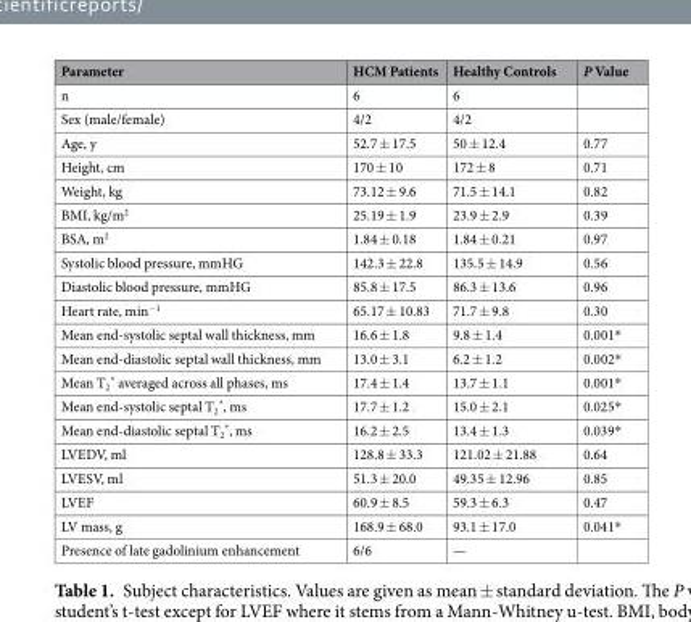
<table><thead><tr><td>Parameter</td><td>HCM Patients</td><td>Healthy Controls</td><td>P Value</td></tr></thead><tbody><tr><td>n</td><td>6</td><td>6</td><td></td></tr><tr><td>Sex (male/female)</td><td>4/2</td><td>4/2</td><td></td></tr><tr><td>Age, y</td><td>52.7 ± 17.5</td><td>50 ± 12.4</td><td>0.77</td></tr><tr><td>Height, cm</td><td>170 ± 10</td><td>172 ± 8</td><td>0.71</td></tr><tr><td>Weight, kg</td><td>73.12 ± 9.6</td><td>71.5 ± 14.1</td><td>0.82</td></tr><tr><td>BMI, kg/m<sup>2</sup></td><td>25.19 ± 1.9</td><td>23.9 ± 2.9</td><td>0.39</td></tr><tr><td>BSA, m<sup>2</sup></td><td>1.84 ± 0.18</td><td>1.84 ± 0.21</td><td>0.97</td></tr><tr><td>Systolic blood pressure, mmHG</td><td>142.3 ± 22.8</td><td>135.5 ± 14.9</td><td>0.56</td></tr><tr><td>Diastolic blood pressure, mmHG</td><td>85.8 ± 17.5</td><td>86.3 ± 13.6</td><td>0.96</td></tr><tr><td>Heart rate, min<sup>−1</sup></td><td>65.17 ± 10.83</td><td>71.7 ± 9.8</td><td>0.30</td></tr><tr><td>Mean end-systolic septal wall thickness, mm</td><td>16.6 ± 1.8</td><td>9.8 ± 1.4</td><td>0.001*</td></tr><tr><td>Mean end-diastolic septal wall thickness, mm</td><td>13.0 ± 3.1</td><td>6.2 ± 1.2</td><td>0.002*</td></tr><tr><td>Mean T<sub>2</sub> * averaged across all phases, ms</td><td>17.4 ± 1.4</td><td>13.7 ± 1.1</td><td>0.001*</td></tr><tr><td>Mean end-systolic septal T<sub>2</sub> *, ms</td><td>17.7 ± 1.2</td><td>15.0 ± 2.1</td><td>0.025*</td></tr><tr><td>Mean end-diastolic septal T<sub>2</sub> *, ms</td><td>16.2 ± 2.5</td><td>13.4 ± 1.3</td><td>0.039*</td></tr><tr><td>LVEDV, ml</td><td>128.8 ± 33.3</td><td>121.02 ± 21.88</td><td>0.64</td></tr><tr><td>LVESV, ml</td><td>51.3 ± 20.0</td><td>49.35 ± 12.96</td><td>0.85</td></tr><tr><td>LVEF</td><td>60.9 ± 8.5</td><td>59.3 ± 6.3</td><td>0.47</td></tr><tr><td>LV mass, g</td><td>168.9 ± 68.0</td><td>93.1 ± 17.0</td><td>0.041*</td></tr><tr><td>Presence of late gadolinium enhancement</td><td>6/6</td><td>—</td><td></td></tr></tbody></table>